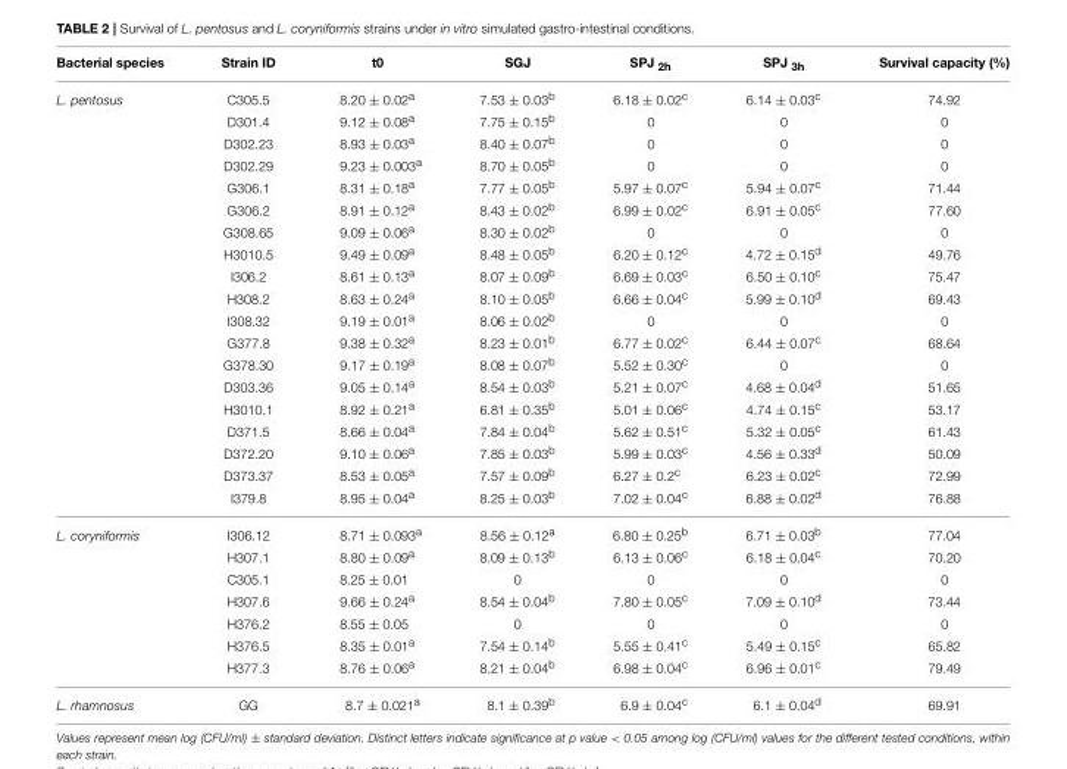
<table><thead><tr><td>Bacterial species</td><td>Strain ID</td><td>t0</td><td>SGJ</td><td>SPJ <sub>2h</sub></td><td>SPJ <sub>3h</sub></td><td>Survival capacity (%)</td></tr></thead><tbody><tr><td rowspan="19">L. pentosus</td><td>C305.5</td><td>8.20 ± 0.02<sup>a</sup></td><td>7.53 ± 0.03<sup>b</sup></td><td>6.18 ± 0.02<sup>c</sup></td><td>6.14 ± 0.03<sup>c</sup></td><td>74.92</td></tr><tr><td>D301.4</td><td>9.12 ± 0.08<sup>a</sup></td><td>7.75 ± 0.15<sup>b</sup></td><td>0</td><td>0</td><td>0</td></tr><tr><td>D302.23</td><td>8.93 ± 0.03<sup>a</sup></td><td>8.40 ± 0.07<sup>b</sup></td><td>0</td><td>0</td><td>0</td></tr><tr><td>D302.29</td><td>9.23 ± 0.003<sup>a</sup></td><td>8.70 ± 0.05<sup>b</sup></td><td>0</td><td>0</td><td>0</td></tr><tr><td>G306.1</td><td>8.31 ± 0.18<sup>a</sup></td><td>7.77 ± 0.05<sup>b</sup></td><td>5.97 ± 0.07<sup>c</sup></td><td>5.94 ± 0.07<sup>c</sup></td><td>71.44</td></tr><tr><td>G306.2</td><td>8.91 ± 0.12<sup>a</sup></td><td>8.43 ± 0.02<sup>b</sup></td><td>6.99 ± 0.02<sup>c</sup></td><td>6.91 ± 0.05<sup>c</sup></td><td>77.60</td></tr><tr><td>G308.65</td><td>9.09 ± 0.06<sup>a</sup></td><td>8.30 ± 0.02<sup>b</sup></td><td>0</td><td>0</td><td>0</td></tr><tr><td>H3010.5</td><td>9.49 ± 0.09<sup>a</sup></td><td>8.48 ± 0.05<sup>b</sup></td><td>6.20 ± 0.12<sup>c</sup></td><td>4.72 ± 0.15<sup>d</sup></td><td>49.76</td></tr><tr><td>I306.2</td><td>8.61 ± 0.13<sup>a</sup></td><td>8.07 ± 0.09<sup>b</sup></td><td>6.69 ± 0.03<sup>c</sup></td><td>6.50 ± 0.10<sup>c</sup></td><td>75.47</td></tr><tr><td>H308.2</td><td>8.63 ± 0.24<sup>a</sup></td><td>8.10 ± 0.05<sup>b</sup></td><td>6.66 ± 0.04<sup>c</sup></td><td>5.99 ± 0.10<sup>d</sup></td><td>69.43</td></tr><tr><td>I308.32</td><td>9.19 ± 0.01<sup>a</sup></td><td>8.06 ± 0.02<sup>b</sup></td><td>0</td><td>0</td><td>0</td></tr><tr><td>G377.8</td><td>9.38 ± 0.32<sup>a</sup></td><td>8.23 ± 0.01<sup>b</sup></td><td>6.77 ± 0.02<sup>c</sup></td><td>6.44 ± 0.07<sup>c</sup></td><td>68.64</td></tr><tr><td>G378.30</td><td>9.17 ± 0.19<sup>a</sup></td><td>8.08 ± 0.07<sup>b</sup></td><td>5.52 ± 0.30<sup>c</sup></td><td>0</td><td>0</td></tr><tr><td>D303.36</td><td>9.05 ± 0.14<sup>a</sup></td><td>8.54 ± 0.03<sup>b</sup></td><td>5.21 ± 0.07<sup>c</sup></td><td>4.68 ± 0.04<sup>d</sup></td><td>51.65</td></tr><tr><td>H3010.1</td><td>8.92 ± 0.21<sup>a</sup></td><td>6.81 ± 0.35<sup>b</sup></td><td>5.01 ± 0.06<sup>c</sup></td><td>4.74 ± 0.15<sup>c</sup></td><td>53.17</td></tr><tr><td>D371.5</td><td>8.66 ± 0.04<sup>a</sup></td><td>7.84 ± 0.04<sup>b</sup></td><td>5.62 ± 0.51<sup>c</sup></td><td>5.32 ± 0.05<sup>c</sup></td><td>61.43</td></tr><tr><td>D372.20</td><td>9.10 ± 0.06<sup>a</sup></td><td>7.85 ± 0.03<sup>b</sup></td><td>5.99 ± 0.03<sup>c</sup></td><td>4.56 ± 0.33<sup>d</sup></td><td>50.09</td></tr><tr><td>D373.37</td><td>8.53 ± 0.05<sup>a</sup></td><td>7.57 ± 0.09<sup>b</sup></td><td>6.27 ± 0.2<sup>c</sup></td><td>6.23 ± 0.02<sup>c</sup></td><td>72.99</td></tr><tr><td>I379.8</td><td>8.95 ± 0.04<sup>a</sup></td><td>8.25 ± 0.03<sup>b</sup></td><td>7.02 ± 0.04<sup>c</sup></td><td>6.88 ± 0.02<sup>d</sup></td><td>76.88</td></tr><tr><td rowspan="7">L. coryniformis</td><td>I306.12</td><td>8.71 ± 0.093<sup>a</sup></td><td>8.56 ± 0.12<sup>a</sup></td><td>6.80 ± 0.25<sup>b</sup></td><td>6.71 ± 0.03<sup>b</sup></td><td>77.04</td></tr><tr><td>H307.1</td><td>8.80 ± 0.09<sup>a</sup></td><td>8.09 ± 0.13<sup>b</sup></td><td>6.13 ± 0.06<sup>c</sup></td><td>6.18 ± 0.04<sup>c</sup></td><td>70.20</td></tr><tr><td>C305.1</td><td>8.25 ± 0.01</td><td>0</td><td>0</td><td>0</td><td>0</td></tr><tr><td>H307.6</td><td>9.66 ± 0.24<sup>a</sup></td><td>8.54 ± 0.04<sup>b</sup></td><td>7.80 ± 0.05<sup>c</sup></td><td>7.09 ± 0.10<sup>d</sup></td><td>73.44</td></tr><tr><td>H376.2</td><td>8.55 ± 0.05</td><td>0</td><td>0</td><td>0</td><td>0</td></tr><tr><td>H376.5</td><td>8.35 ± 0.01<sup>a</sup></td><td>7.54 ± 0.14<sup>b</sup></td><td>5.55 ± 0.41<sup>c</sup></td><td>5.49 ± 0.15<sup>c</sup></td><td>65.82</td></tr><tr><td>H377.3</td><td>8.76 ± 0.06<sup>a</sup></td><td>8.21 ± 0.04<sup>b</sup></td><td>6.98 ± 0.04<sup>c</sup></td><td>6.96 ± 0.01<sup>c</sup></td><td>79.49</td></tr><tr><td>L. rhamnosus</td><td>GG</td><td>8.7 ± 0.021<sup>a</sup></td><td>8.1 ± 0.39<sup>b</sup></td><td>6.9 ± 0.04<sup>c</sup></td><td>6.1 ± 0.04<sup>d</sup></td><td>69.91</td></tr></tbody></table>